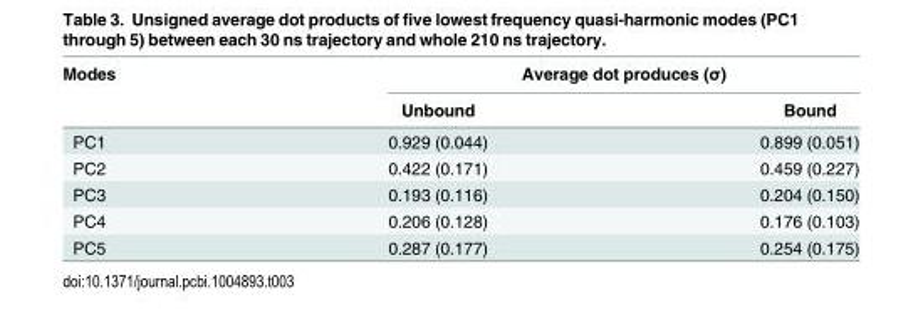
<table><thead><tr><td rowspan="2">Modes</td><td colspan="2">Average dot produces (σ)</td></tr><tr><td>Unbound</td><td>Bound</td></tr></thead><tbody><tr><td>PC1</td><td>0.929 (0.044)</td><td>0.899 (0.051)</td></tr><tr><td>PC2</td><td>0.422 (0.171)</td><td>0.459 (0.227)</td></tr><tr><td>PC3</td><td>0.193 (0.116)</td><td>0.204 (0.150)</td></tr><tr><td>PC4</td><td>0.206 (0.128)</td><td>0.176 (0.103)</td></tr><tr><td>PC5</td><td>0.287 (0.177)</td><td>0.254 (0.175)</td></tr></tbody></table>